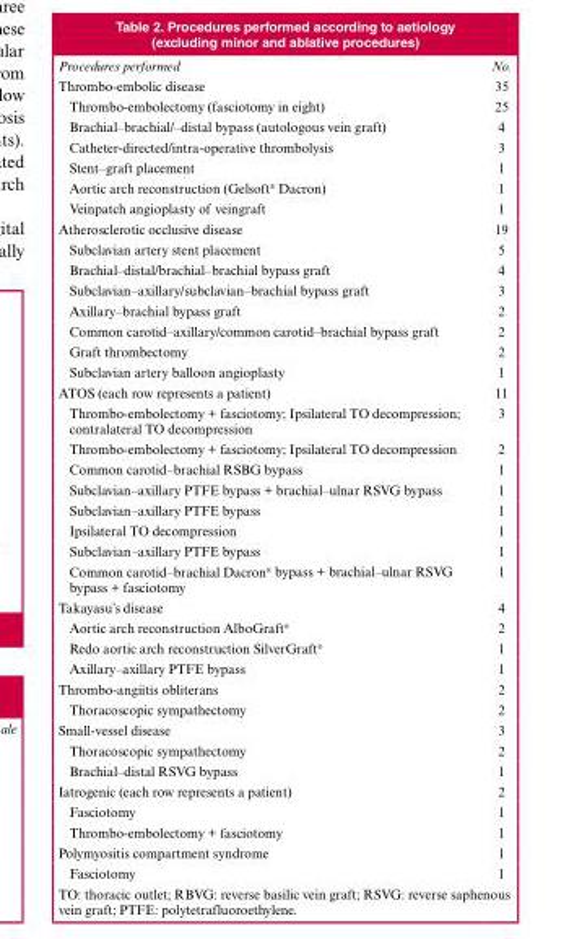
<table><thead><tr><td>Procedures performed</td><td>No.</td></tr></thead><tbody><tr><td>Thrombo-embolic disease</td><td>35</td></tr><tr><td>Thrombo-embolectomy (fasciotomy in eight)</td><td>25</td></tr><tr><td>Brachial–brachial/–distal bypass (autologous vein graft)</td><td>4</td></tr><tr><td>Catheter-directed/intra-operative thrombolysis</td><td>3</td></tr><tr><td>Stent–graft placement</td><td>1</td></tr><tr><td>Aortic arch reconstruction (Gelsoft® Dacron)</td><td>1</td></tr><tr><td>Veinpatch angioplasty of veingraft</td><td>1</td></tr><tr><td>Atherosclerotic occlusive disease</td><td>19</td></tr><tr><td>Subclavian artery stent placement</td><td>5</td></tr><tr><td>Brachial–distal/brachial–brachial bypass graft</td><td>4</td></tr><tr><td>Subclavian–axillary/subclavian–brachial bypass graft</td><td>3</td></tr><tr><td>Axillary–brachial bypass graft</td><td>2</td></tr><tr><td>Common carotid–axillary/common carotid–brachial bypass graft</td><td>2</td></tr><tr><td>Graft thrombectomy</td><td>2</td></tr><tr><td>Subclavian artery balloon angioplasty</td><td>1</td></tr><tr><td>ATOS (each row represents a patient)</td><td>11</td></tr><tr><td>Thrombo-embolectomy + fasciotomy; Ipsilateral TO decompression; contralateral TO decompression</td><td>3</td></tr><tr><td>Thrombo-embolectomy + fasciotomy; Ipsilateral TO decompression</td><td>2</td></tr><tr><td>Common carotid–brachial RSBG bypass</td><td>1</td></tr><tr><td>Subclavian–axillary PTFE bypass + brachial–ulnar RSVG bypass</td><td>1</td></tr><tr><td>Subclavian–axillary PTFE bypass</td><td>1</td></tr><tr><td>Ipsilateral TO decompression Subclavian–axillary PTFE bypass</td><td>1 1</td></tr><tr><td>Common carotid–brachial Dacron® bypass + brachial–ulnar RSVG bypass + fasciotomy</td><td>1</td></tr><tr><td>Takayasu’s disease</td><td>4</td></tr><tr><td>Aortic arch reconstruction AlboGraft®</td><td>2</td></tr><tr><td>Redo aortic arch reconstruction SilverGraft®</td><td>1</td></tr><tr><td>Axillary–axillary PTFE bypass</td><td>1</td></tr><tr><td>Thrombo-angiitis obliterans</td><td>2</td></tr><tr><td>Thoracoscopic sympathectomy</td><td>2</td></tr><tr><td>Small-vessel disease</td><td>3</td></tr><tr><td>Thoracoscopic sympathectomy</td><td>2</td></tr><tr><td>Brachial–distal RSVG bypass</td><td>1</td></tr><tr><td>Iatrogenic (each row represents a patient)</td><td>2</td></tr><tr><td>Fasciotomy</td><td>1</td></tr><tr><td>Thrombo-embolectomy + fasciotomy</td><td>1</td></tr><tr><td>Polymyositis compartment syndrome</td><td>1</td></tr><tr><td>Fasciotomy</td><td>1</td></tr></tbody></table>